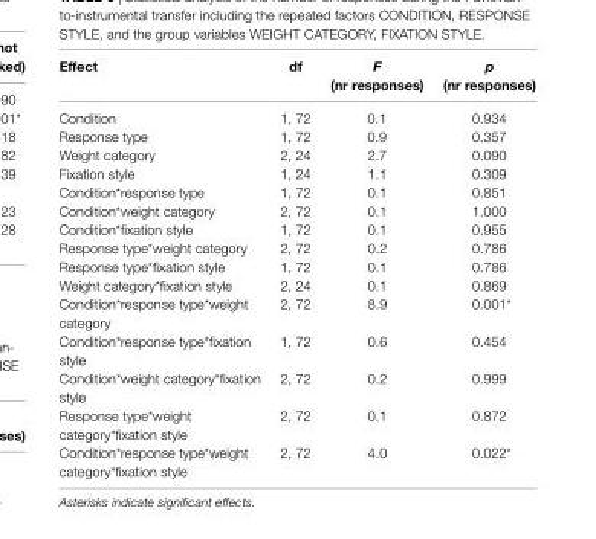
<table><thead><tr><td>effect</td><td>df</td><td>F (nr responses)</td><td>p (nr responses)</td></tr></thead><tbody><tr><td>Condition</td><td>1, 72</td><td>0.1</td><td>0.934</td></tr><tr><td>Response type</td><td>1, 72</td><td>0.9</td><td>0.357</td></tr><tr><td>Weight category</td><td>2, 24</td><td>2.7</td><td>0.090</td></tr><tr><td>Fixation style</td><td>1, 24</td><td>1.1</td><td>0.309</td></tr><tr><td>Condition*response type</td><td>1, 72</td><td>0.1</td><td>0.851</td></tr><tr><td>Condition*weight category</td><td>2, 72</td><td>0.1</td><td>1.000</td></tr><tr><td>Condition*fixation style</td><td>1, 72</td><td>0.1</td><td>0.955</td></tr><tr><td>Response type*weight category</td><td>2, 72</td><td>0.2</td><td>0.786</td></tr><tr><td>Response type*fixation style</td><td>1, 72</td><td>0.1</td><td>0.786</td></tr><tr><td>Weight category*fixation style</td><td>2, 24</td><td>0.1</td><td>0.869</td></tr><tr><td>Condition*response type*weight category</td><td>2, 72</td><td>8.9</td><td>0.001*</td></tr><tr><td>Condition*response type*fixation style</td><td>1, 72</td><td>0.6</td><td>0.454</td></tr><tr><td>Condition*weight category*fixation style</td><td>2, 72</td><td>0.2</td><td>0.999</td></tr><tr><td>Response type*weight category*fixation style</td><td>2, 72</td><td>0.1</td><td>0.872</td></tr><tr><td>Condition*response type*weight category*fixation style</td><td>2, 72</td><td>4.0</td><td>0.022*</td></tr></tbody></table>